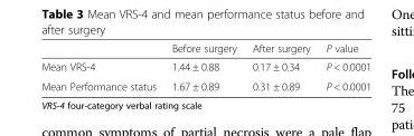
<table><thead><tr><td></td><td>Before surgery</td><td>After surgery</td><td>P value</td></tr></thead><tbody><tr><td>Mean VRS-4</td><td>1.44 ± 0.88</td><td>0.17 ± 0.34</td><td>P &lt; 0.0001</td></tr><tr><td>Mean Performance status</td><td>1.67 ± 0.89</td><td>0.31 ± 0.89</td><td>P &lt; 0.0001</td></tr></tbody></table>